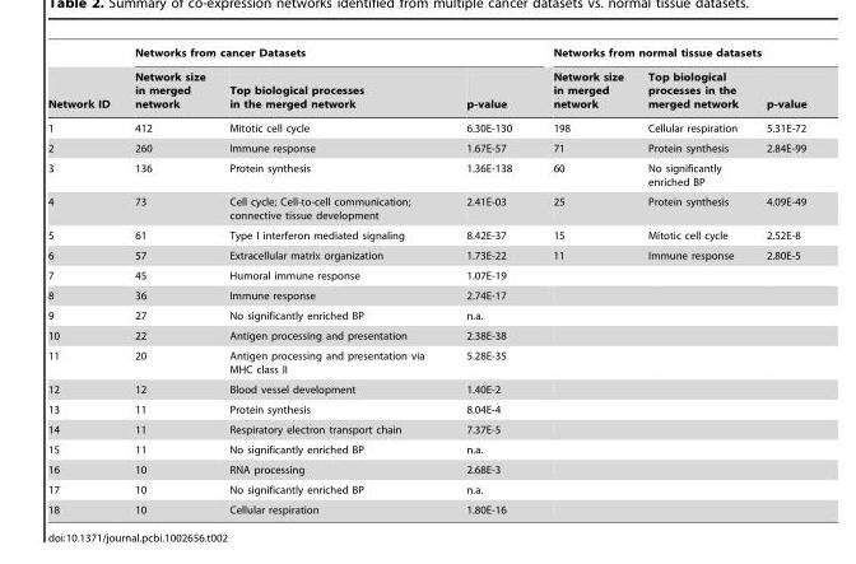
<table><thead><tr><td rowspan="2">Network ID</td><td colspan="3">Networks from cancer Datasets</td><td colspan="3">Networks from normal tissue datasets</td></tr><tr><td>Network size in merged network</td><td>Top biological processes in the merged network</td><td>p-value</td><td>Network size in merged network</td><td>Top biological processes in the merged network</td><td>p-value</td></tr></thead><tbody><tr><td>1</td><td>412</td><td>Mitotic cell cycle</td><td>6.30E-130</td><td>198</td><td>Cellular respiration</td><td>5.31E-72</td></tr><tr><td>2</td><td>260</td><td>Immune response</td><td>1.67E-57</td><td>71</td><td>Protein synthesis</td><td>2.84E-99</td></tr><tr><td>3</td><td>136</td><td>Protein synthesis</td><td>1.36E-138</td><td>60</td><td>No significantly enriched BP</td><td></td></tr><tr><td>4</td><td>73</td><td>Cell cycle; Cell-to-cell communication; connective tissue development</td><td>2.41E-03</td><td>25</td><td>Protein synthesis</td><td>4.09E-49</td></tr><tr><td>5</td><td>61</td><td>Type I interferon mediated signaling</td><td>8.42E-37</td><td>15</td><td>Mitotic cell cycle</td><td>2.52E-8</td></tr><tr><td>6</td><td>57</td><td>Extracellular matrix organization</td><td>1.73E-22</td><td>11</td><td>Immune response</td><td>2.80E-5</td></tr><tr><td>7</td><td>45</td><td>Humoral immune response</td><td>1.07E-19</td><td></td><td></td><td></td></tr><tr><td>8</td><td>36</td><td>Immune response</td><td>2.74E-17</td><td></td><td></td><td></td></tr><tr><td>9</td><td>27</td><td>No significantly enriched BP</td><td>n.a.</td><td></td><td></td><td></td></tr><tr><td>10</td><td>22</td><td>Antigen processing and presentation</td><td>2.38E-38</td><td></td><td></td><td></td></tr><tr><td>11</td><td>20</td><td>Antigen processing and presentation via MHC class II</td><td>5.28E-35</td><td></td><td></td><td></td></tr><tr><td>12</td><td>12</td><td>Blood vessel development</td><td>1.40E-2</td><td></td><td></td><td></td></tr><tr><td>13</td><td>11</td><td>Protein synthesis</td><td>8.04E-4</td><td></td><td></td><td></td></tr><tr><td>14</td><td>11</td><td>Respiratory electron transport chain</td><td>7.37E-5</td><td></td><td></td><td></td></tr><tr><td>15</td><td>11</td><td>No significantly enriched BP</td><td>n.a.</td><td></td><td></td><td></td></tr><tr><td>16</td><td>10</td><td>RNA processing</td><td>2.68E-3</td><td></td><td></td><td></td></tr><tr><td>17</td><td>10</td><td>No significantly enriched BP</td><td>n.a.</td><td></td><td></td><td></td></tr><tr><td>18</td><td>10</td><td>Cellular respiration</td><td>1.80E-16</td><td></td><td></td><td></td></tr></tbody></table>